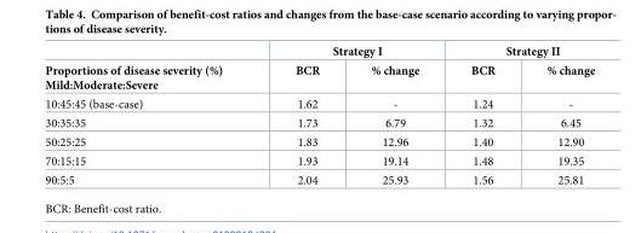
<table><thead><tr><td rowspan="2">Proportions of disease severity (%) Mild:Moderate:Severe</td><td colspan="2">Strategy I</td><td colspan="2">Strategy II</td></tr><tr><td>BCR</td><td>% change</td><td>BCR</td><td>% change</td></tr></thead><tbody><tr><td>10:45:45 (base-case)</td><td>1.62</td><td>-</td><td>1.24</td><td>-</td></tr><tr><td>30:35:35</td><td>1.73</td><td>6.79</td><td>1.32</td><td>6.45</td></tr><tr><td>50:25:25</td><td>1.83</td><td>12.96</td><td>1.40</td><td>12.90</td></tr><tr><td>70:15:15</td><td>1.93</td><td>19.14</td><td>1.48</td><td>19.35</td></tr><tr><td>90:5:5</td><td>2.04</td><td>25.93</td><td>1.56</td><td>25.81</td></tr></tbody></table>